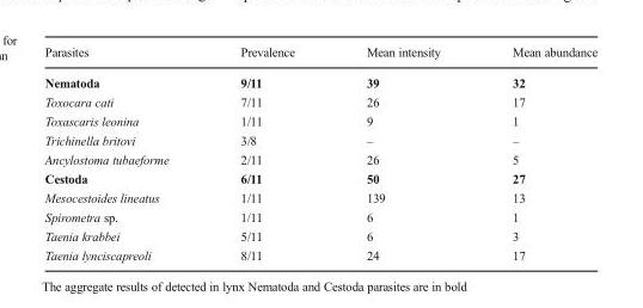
<table><thead><tr><td>Parasites</td><td>Prevalence</td><td>Mean intensity</td><td>Mean abundance</td></tr></thead><tbody><tr><td>Nematoda</td><td>9/11</td><td>39</td><td>32</td></tr><tr><td>Toxocara cati</td><td>7/11</td><td>26</td><td>17</td></tr><tr><td>Toxascaris leonina</td><td>1/11</td><td>9</td><td>1</td></tr><tr><td>Trichinella britovi</td><td>3/8</td><td>–</td><td>–</td></tr><tr><td>Ancylostoma tubaeforme</td><td>2/11</td><td>26</td><td>5</td></tr><tr><td>Cestoda</td><td>6/11</td><td>50</td><td>27</td></tr><tr><td>Mesocestoides lineatus</td><td>1/11</td><td>139</td><td>13</td></tr><tr><td>Spirometra sp.</td><td>1/11</td><td>6</td><td>1</td></tr><tr><td>Taenia krabbei</td><td>5/11</td><td>6</td><td>3</td></tr><tr><td>Taenia lynciscapreoli</td><td>8/11</td><td>24</td><td>17</td></tr></tbody></table>